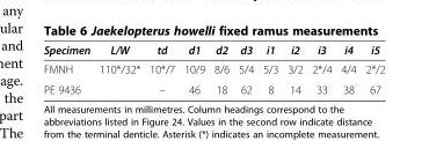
<table><thead><tr><td>Specimen</td><td>L/W</td><td>td</td><td>d1</td><td>d2</td><td>d3</td><td>i1</td><td>i2</td><td>i3</td><td>i4</td><td>i5</td></tr></thead><tbody><tr><td>FMNH</td><td>110*/32*</td><td>10*/7</td><td>10/9</td><td>8/6</td><td>5/4</td><td>5/3</td><td>3/2</td><td>2*/4</td><td>4/4</td><td>2*/2</td></tr><tr><td>PE 9436</td><td></td><td>–</td><td>46</td><td>18</td><td>62</td><td>8</td><td>14</td><td>33</td><td>38</td><td>67</td></tr></tbody></table>